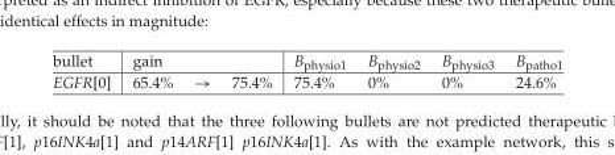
<table><thead><tr><td>bullet</td><td>gain</td><td></td><td></td><td>B<sub>physio1</sub></td><td>B<sub>physio2</sub></td><td>B<sub>physio3</sub></td><td>B<sub>patho1</sub></td></tr></thead><tbody><tr><td>EGFR[0]</td><td>65.4%</td><td>→</td><td>75.4%</td><td>75.4%</td><td>0%</td><td>0%</td><td>24.6%</td></tr></tbody></table>